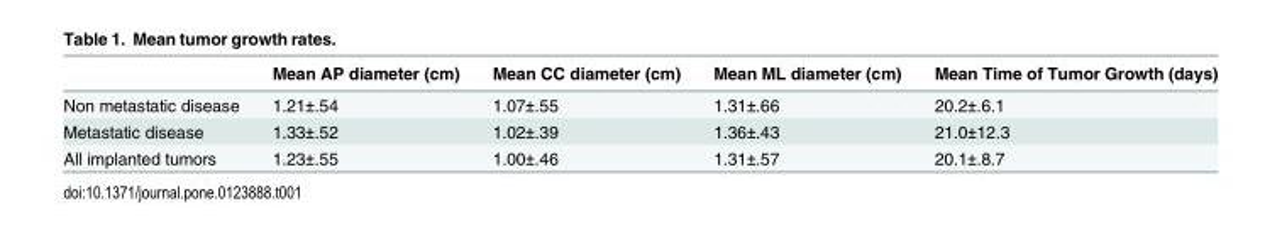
<table><thead><tr><td></td><td>Mean AP diameter (cm)</td><td>Mean CC diameter (cm)</td><td>Mean ML diameter (cm)</td><td>Mean Time of Tumor Growth (days)</td></tr></thead><tbody><tr><td>Non metastatic disease</td><td>1.21±.54</td><td>1.07±.55</td><td>1.31±.66</td><td>20.2±.6.1</td></tr><tr><td>Metastatic disease</td><td>1.33±.52</td><td>1.02±.39</td><td>1.36±.43</td><td>21.0±12.3</td></tr><tr><td>All implanted tumors</td><td>1.23±.55</td><td>1.00±.46</td><td>1.31±.57</td><td>20.1±.8.7</td></tr></tbody></table>